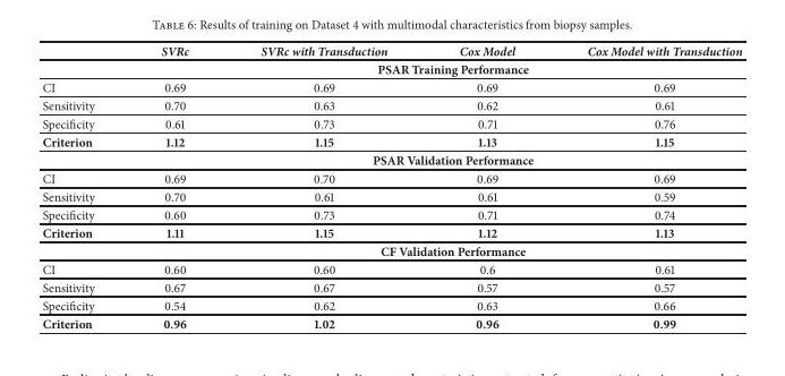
<table><thead><tr><td></td><td>SVRc</td><td>SVRc with Transduction</td><td>Cox Model</td><td>Cox Model with Transduction</td></tr></thead><tbody><tr><td></td><td colspan="4">PSAR Training Performance</td></tr><tr><td>CI</td><td>0.69</td><td>0.69</td><td>0.69</td><td>0.69</td></tr><tr><td>Sensitivity</td><td>0.70</td><td>0.63</td><td>0.62</td><td>0.61</td></tr><tr><td>Specificity</td><td>0.61</td><td>0.73</td><td>0.71</td><td>0.76</td></tr><tr><td rowspan="2">Criterion</td><td>1.12</td><td>1.15</td><td>1.13</td><td>1.15</td></tr><tr><td colspan="4">PSAR Validation Performance</td></tr><tr><td>CI</td><td>0.69</td><td>0.70</td><td>0.69</td><td>0.69</td></tr><tr><td>Sensitivity</td><td>0.70</td><td>0.61</td><td>0.61</td><td>0.59</td></tr><tr><td>Specificity</td><td>0.60</td><td>0.73</td><td>0.71</td><td>0.74</td></tr><tr><td rowspan="2">Criterion</td><td>1.11</td><td>1.15</td><td>1.12</td><td>1.13</td></tr><tr><td colspan="4">CF Validation Performance</td></tr><tr><td>CI</td><td>0.60</td><td>0.60</td><td>0.6</td><td>0.61</td></tr><tr><td>Sensitivity</td><td>0.67</td><td>0.67</td><td>0.57</td><td>0.57</td></tr><tr><td>Specificity</td><td>0.54</td><td>0.62</td><td>0.63</td><td>0.66</td></tr><tr><td>Criterion</td><td>0.96</td><td>1.02</td><td>0.96</td><td>0.99</td></tr></tbody></table>